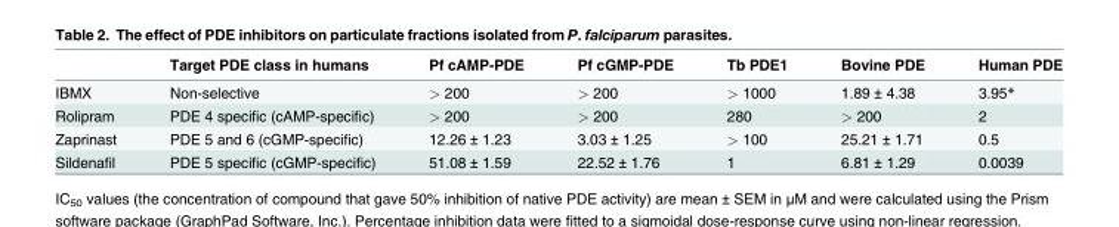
<table><thead><tr><td></td><td>Target PDE class in humans</td><td>Pf cAMP-PDE</td><td>Pf cGMP-PDE</td><td>Tb PDE1</td><td>Bovine PDE</td><td>Human PDE</td></tr></thead><tbody><tr><td>IBMX</td><td>Non-selective</td><td>&gt; 200</td><td>&gt; 200</td><td>&gt; 1000</td><td>1.89 ± 4.38</td><td>3.95*</td></tr><tr><td>Rolipram</td><td>PDE 4 specific (cAMP-specific)</td><td>&gt; 200</td><td>&gt; 200</td><td>280</td><td>&gt; 200</td><td>2</td></tr><tr><td>Zaprinast</td><td>PDE 5 and 6 (cGMP-specific)</td><td>12.26 ± 1.23</td><td>3.03 ± 1.25</td><td>&gt; 100</td><td>25.21 ± 1.71</td><td>0.5</td></tr><tr><td>Sildenafil</td><td>PDE 5 specific (cGMP-specific)</td><td>51.08 ± 1.59</td><td>22.52 ± 1.76</td><td>1</td><td>6.81 ± 1.29</td><td>0.0039</td></tr></tbody></table>